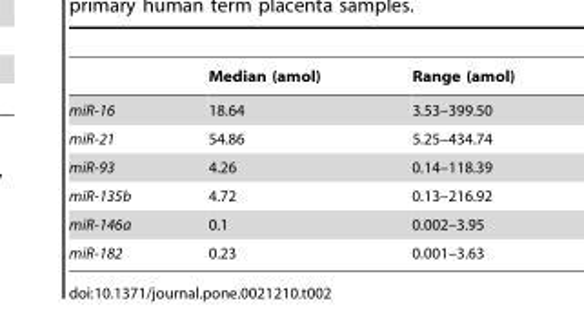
<table><thead><tr><td></td><td>Median (amol)</td><td>Range (amol)</td></tr></thead><tbody><tr><td>miR-16</td><td>18.64</td><td>3.53–399.50</td></tr><tr><td>miR-21</td><td>54.86</td><td>5.25–434.74</td></tr><tr><td>miR-93</td><td>4.26</td><td>0.14–118.39</td></tr><tr><td>miR-135b</td><td>4.72</td><td>0.13–216.92</td></tr><tr><td>miR-146a</td><td>0.1</td><td>0.002–3.95</td></tr><tr><td>miR-182</td><td>0.23</td><td>0.001–3.63</td></tr></tbody></table>